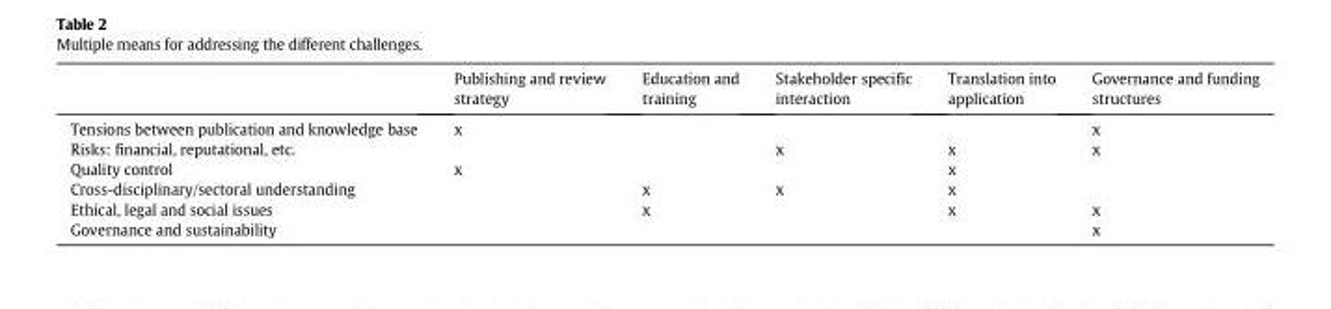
<table><thead><tr><td></td><td>Publishing and review strategy</td><td>Education and training</td><td>Stakeholder specific interaction</td><td>Translation into application</td><td>Governance and funding structures</td></tr></thead><tbody><tr><td>Tensions between publication and knowledge base</td><td>x</td><td></td><td></td><td></td><td>x</td></tr><tr><td>Risks: financial, reputational, etc.</td><td></td><td></td><td>x</td><td>x</td><td>x</td></tr><tr><td>Quality control</td><td>x</td><td></td><td></td><td>x</td><td></td></tr><tr><td>Cross-disciplinary/sectoral understanding</td><td></td><td>x</td><td>x</td><td>x</td><td></td></tr><tr><td>Ethical, legal and social issues</td><td></td><td>x</td><td></td><td>x</td><td>x</td></tr><tr><td>Governance and sustainability</td><td></td><td></td><td></td><td></td><td>x</td></tr></tbody></table>